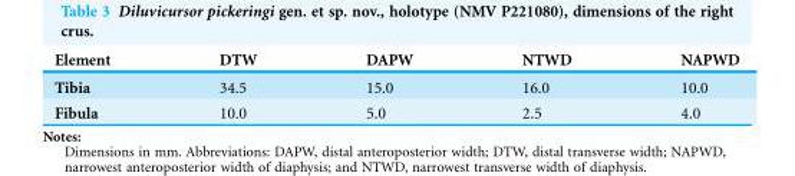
<table><thead><tr><td>Element</td><td>DTW</td><td>DAPW</td><td>NTWD</td><td>NAPWD</td></tr></thead><tbody><tr><td>Tibia</td><td>34.5</td><td>15.0</td><td>16.0</td><td>10.0</td></tr><tr><td>Fibula</td><td>10.0</td><td>5.0</td><td>2.5</td><td>4.0</td></tr></tbody></table>